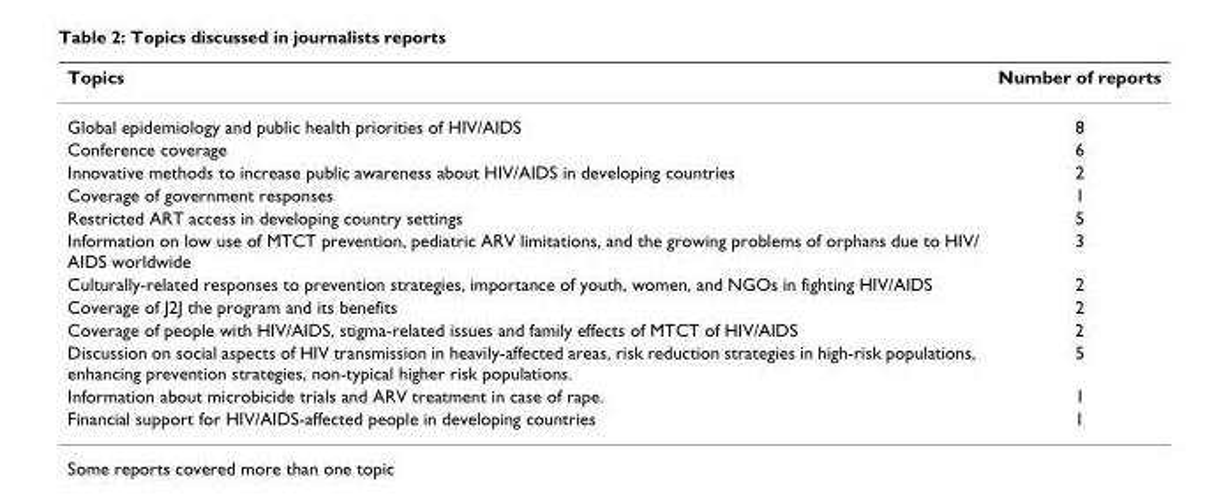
<table><thead><tr><td>Topics</td><td>Number of reports</td></tr></thead><tbody><tr><td>Global epidemiology and public health priorities of HIV/AIDS</td><td>8</td></tr><tr><td>Conference coverage</td><td>6</td></tr><tr><td>Innovative methods to increase public awareness about HIV/AIDS in developing countries</td><td>2</td></tr><tr><td>Coverage of government responses</td><td>1</td></tr><tr><td>Restricted ART access in developing country settings</td><td>5</td></tr><tr><td>Information on low use of MTCT prevention, pediatric ARV limitations, and the growing problems of orphans due to HIV/ AIDS worldwide</td><td>3</td></tr><tr><td>Culturally-related responses to prevention strategies, importance of youth, women, and NGOs in fighting HIV/AIDS</td><td>2</td></tr><tr><td>Coverage of J2J the program and its benefits</td><td>2</td></tr><tr><td>Coverage of people with HIV/AIDS, stigma-related issues and family effects of MTCT of HIV/AIDS</td><td>2</td></tr><tr><td>Discussion on social aspects of HIV transmission in heavily-affected areas, risk reduction strategies in high-risk populations, enhancing prevention strategies, non-typical higher risk populations.</td><td>5</td></tr><tr><td>Information about microbicide trials and ARV treatment in case of rape.</td><td>1</td></tr><tr><td>Financial support for HIV/AIDS-affected people in developing countries</td><td>1</td></tr></tbody></table>